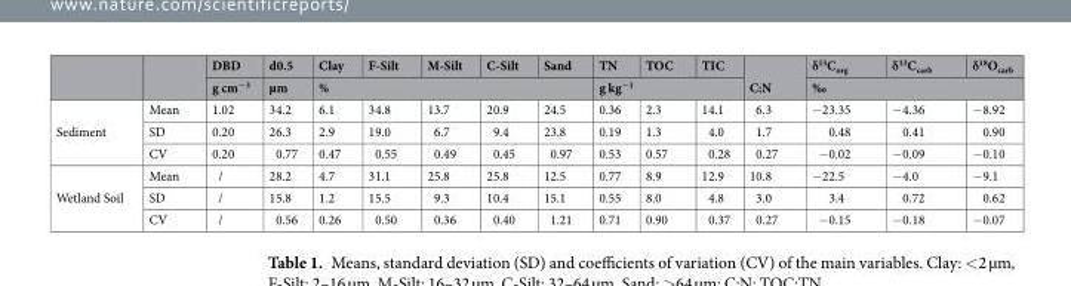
<table><thead><tr><td rowspan="2"></td><td rowspan="2"></td><td rowspan="2">DBD g cm<sup>−3</sup></td><td rowspan="2">d0.5 µm</td><td>Clay</td><td>F-Silt</td><td>M-Silt</td><td>C-Silt</td><td>Sand</td><td>TN</td><td>TOC</td><td>TIC</td><td rowspan="2">C:N</td><td>δ<sup>13</sup>C<sub>org</sub></td><td>δ<sup>13</sup>C<sub>carb</sub></td><td>δ<sup>18</sup>O<sub>carb</sub></td></tr><tr><td colspan="5">%</td><td colspan="3">g kg<sup>−1</sup></td><td colspan="3">‰</td></tr></thead><tbody><tr><td rowspan="3">Sediment</td><td>Mean</td><td>1.02</td><td>34.2</td><td>6.1</td><td>34.8</td><td>13.7</td><td>20.9</td><td>24.5</td><td>0.36</td><td>2.3</td><td>14.1</td><td>6.3</td><td>−23.35</td><td>−4.36</td><td>−8.92</td></tr><tr><td>SD</td><td>0.20</td><td>26.3</td><td>2.9</td><td>19.0</td><td>6.7</td><td>9.4</td><td>23.8</td><td>0.19</td><td>1.3</td><td>4.0</td><td>1.7</td><td>0.48</td><td>0.41</td><td>0.90</td></tr><tr><td>CV</td><td>0.20</td><td>0.77</td><td>0.47</td><td>0.55</td><td>0.49</td><td>0.45</td><td>0.97</td><td>0.53</td><td>0.57</td><td>0.28</td><td>0.27</td><td>−0.02</td><td>−0.09</td><td>−0.10</td></tr><tr><td rowspan="3">Wetland Soil</td><td>Mean</td><td>/</td><td>28.2</td><td>4.7</td><td>31.1</td><td>25.8</td><td>25.8</td><td>12.5</td><td>0.77</td><td>8.9</td><td>12.9</td><td>10.8</td><td>−22.5</td><td>−4.0</td><td>−9.1</td></tr><tr><td>SD</td><td>/</td><td>15.8</td><td>1.2</td><td>15.5</td><td>9.3</td><td>10.4</td><td>15.1</td><td>0.55</td><td>8.0</td><td>4.8</td><td>3.0</td><td>3.4</td><td>0.72</td><td>0.62</td></tr><tr><td>CV</td><td>/</td><td>0.56</td><td>0.26</td><td>0.50</td><td>0.36</td><td>0.40</td><td>1.21</td><td>0.71</td><td>0.90</td><td>0.37</td><td>0.27</td><td>−0.15</td><td>−0.18</td><td>−0.07</td></tr></tbody></table>